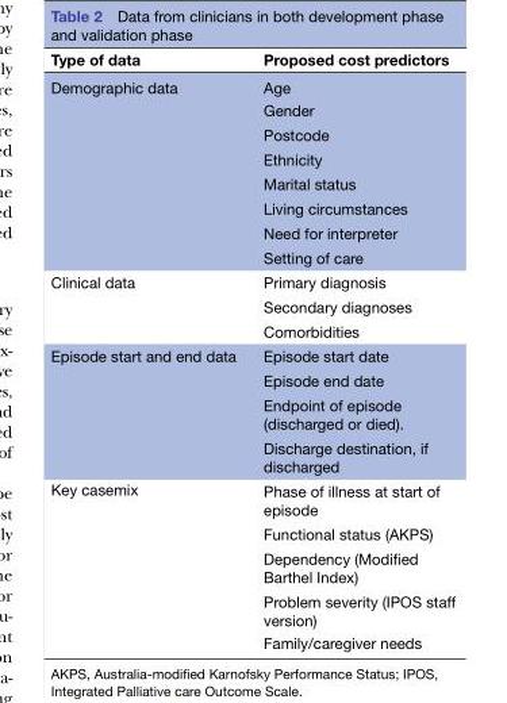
<table><thead><tr><td>Type of data</td><td>Proposed cost predictors</td></tr></thead><tbody><tr><td rowspan="8">Demographic data</td><td>Age</td></tr><tr><td>Gender</td></tr><tr><td>Postcode</td></tr><tr><td>Ethnicity</td></tr><tr><td>Marital status</td></tr><tr><td>Living circumstances</td></tr><tr><td>Need for interpreter</td></tr><tr><td>Setting of care</td></tr><tr><td rowspan="3">Clinical data</td><td>Primary diagnosis</td></tr><tr><td>Secondary diagnoses</td></tr><tr><td>Comorbidities</td></tr><tr><td rowspan="4">Episode start and end data</td><td>Episode start date</td></tr><tr><td>Episode end date</td></tr><tr><td>Endpoint of episode (discharged or died).</td></tr><tr><td>Discharge destination, if discharged</td></tr><tr><td rowspan="5">Key casemix</td><td>Phase of illness at start of episode</td></tr><tr><td>Functional status (AKPS)</td></tr><tr><td>Dependency (Modified Barthel Index)</td></tr><tr><td>Problem severity (IPOS staff version)</td></tr><tr><td>Family/caregiver needs</td></tr></tbody></table>